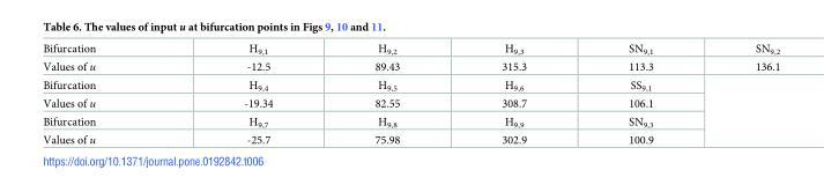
<table><tbody><tr><td>Bifurcation</td><td>H<sub>9,1</sub></td><td>H<sub>9,2</sub></td><td>H<sub>9,3</sub></td><td>SN<sub>9,1</sub></td><td>SN<sub>9,2</sub></td></tr><tr><td>Values of u</td><td>-12.5</td><td>89.43</td><td>315.3</td><td>113.3</td><td>136.1</td></tr><tr><td>Bifurcation</td><td>H<sub>9,4</sub></td><td>H<sub>9,5</sub></td><td>H<sub>9,6</sub></td><td>SS<sub>9,1</sub></td><td rowspan="4"></td></tr><tr><td>Values of u</td><td>-19.34</td><td>82.55</td><td>308.7</td><td>106.1</td></tr><tr><td>Bifurcation</td><td>H<sub>9,7</sub></td><td>H<sub>9,8</sub></td><td>H<sub>9,9</sub></td><td>SN<sub>9,3</sub></td></tr><tr><td>Values of u</td><td>-25.7</td><td>75.98</td><td>302.9</td><td>100.9</td></tr></tbody></table>